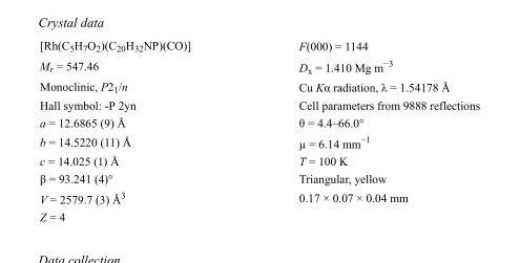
<table><tbody><tr><td>[Rh(C<sub>5</sub>H<sub>7</sub>O<sub>2</sub>)(C<sub>20</sub>H<sub>32</sub>NP)(CO)]</td><td>F(000) = 1144</td></tr><tr><td>M<sub>r</sub> = 547.46</td><td>D<sub>x</sub> = 1.410 Mg m<sup>−3</sup></td></tr><tr><td>Monoclinic, P2<sub>1</sub>/n</td><td>Cu Kα radiation, λ = 1.54178 Å</td></tr><tr><td>Hall symbol: -P 2yn</td><td>Cell parameters from 9888 reflections</td></tr><tr><td>a = 12.6865 (9) Å</td><td>θ = 4.4–66.0°</td></tr><tr><td>b = 14.5220 (11) Å</td><td>µ = 6.14 mm<sup>−1</sup></td></tr><tr><td>c = 14.025 (1) Å</td><td>T = 100 K</td></tr><tr><td>β = 93.241 (4)°</td><td>Triangular, yellow</td></tr><tr><td>V = 2579.7 (3) Å<sup>3</sup></td><td>0.17 × 0.07 × 0.04 mm</td></tr><tr><td>Z = 4</td><td></td></tr></tbody></table>